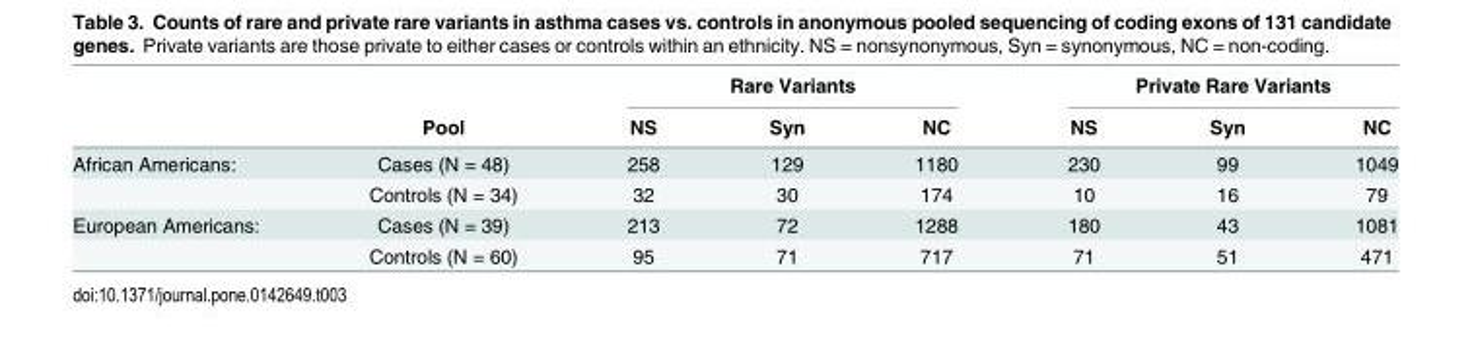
<table><thead><tr><td rowspan="2"></td><td rowspan="2">Pool</td><td colspan="3">Rare Variants</td><td colspan="3">Private Rare Variants</td></tr><tr><td>NS</td><td>Syn</td><td>NC</td><td>NS</td><td>Syn</td><td>NC</td></tr></thead><tbody><tr><td rowspan="2">African Americans:</td><td>Cases (N = 48)</td><td>258</td><td>129</td><td>1180</td><td>230</td><td>99</td><td>1049</td></tr><tr><td>Controls (N = 34)</td><td>32</td><td>30</td><td>174</td><td>10</td><td>16</td><td>79</td></tr><tr><td rowspan="2">European Americans:</td><td>Cases (N = 39)</td><td>213</td><td>72</td><td>1288</td><td>180</td><td>43</td><td>1081</td></tr><tr><td>Controls (N = 60)</td><td>95</td><td>71</td><td>717</td><td>71</td><td>51</td><td>471</td></tr></tbody></table>